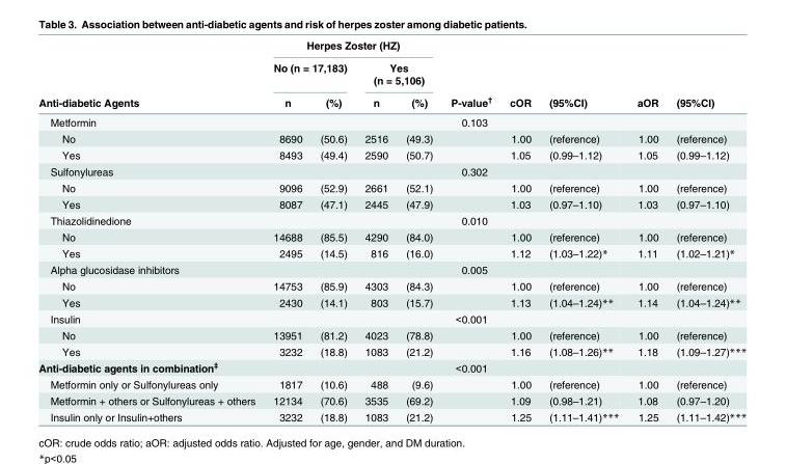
<table><thead><tr><td rowspan="3">Anti-diabetic Agents</td><td colspan="4">Herpes Zoster (HZ)</td><td rowspan="3">P-value<sup>†</sup></td><td rowspan="3">cOR</td><td rowspan="3">(95%CI)</td><td rowspan="3">aOR</td><td rowspan="3">(95%CI)</td></tr><tr><td colspan="2">No (n = 17,183)</td><td colspan="2">Yes (n = 5,106)</td></tr><tr><td>n</td><td>(%)</td><td>n</td><td>(%)</td></tr></thead><tbody><tr><td>Metformin</td><td></td><td></td><td></td><td></td><td>0.103</td><td></td><td></td><td></td><td></td></tr><tr><td>No</td><td>8690</td><td>(50.6)</td><td>2516</td><td>(49.3)</td><td></td><td>1.00</td><td>(reference)</td><td>1.00</td><td>(reference)</td></tr><tr><td>Yes</td><td>8493</td><td>(49.4)</td><td>2590</td><td>(50.7)</td><td></td><td>1.05</td><td>(0.99–1.12)</td><td>1.05</td><td>(0.99–1.12)</td></tr><tr><td>Sulfonylureas</td><td></td><td></td><td></td><td></td><td>0.302</td><td></td><td></td><td></td><td></td></tr><tr><td>No</td><td>9096</td><td>(52.9)</td><td>2661</td><td>(52.1)</td><td></td><td>1.00</td><td>(reference)</td><td>1.00</td><td>(reference)</td></tr><tr><td>Yes</td><td>8087</td><td>(47.1)</td><td>2445</td><td>(47.9)</td><td></td><td>1.03</td><td>(0.97–1.10)</td><td>1.03</td><td>(0.97–1.10)</td></tr><tr><td>Thiazolidinedione</td><td></td><td></td><td></td><td></td><td>0.010</td><td></td><td></td><td></td><td></td></tr><tr><td>No</td><td>14688</td><td>(85.5)</td><td>4290</td><td>(84.0)</td><td></td><td>1.00</td><td>(reference)</td><td>1.00</td><td>(reference)</td></tr><tr><td>Yes</td><td>2495</td><td>(14.5)</td><td>816</td><td>(16.0)</td><td></td><td>1.12</td><td>(1.03–1.22)*</td><td>1.11</td><td>(1.02–1.21)*</td></tr><tr><td>Alpha glucosidase inhibitors</td><td></td><td></td><td></td><td></td><td>0.005</td><td></td><td></td><td></td><td></td></tr><tr><td>No</td><td>14753</td><td>(85.9)</td><td>4303</td><td>(84.3)</td><td></td><td>1.00</td><td>(reference)</td><td>1.00</td><td>(reference)</td></tr><tr><td>Yes</td><td>2430</td><td>(14.1)</td><td>803</td><td>(15.7)</td><td></td><td>1.13</td><td>(1.04–1.24)**</td><td>1.14</td><td>(1.04–1.24)**</td></tr><tr><td>Insulin</td><td></td><td></td><td></td><td></td><td>&lt;0.001</td><td></td><td></td><td></td><td></td></tr><tr><td>No</td><td>13951</td><td>(81.2)</td><td>4023</td><td>(78.8)</td><td></td><td>1.00</td><td>(reference)</td><td>1.00</td><td>(reference)</td></tr><tr><td>Yes</td><td>3232</td><td>(18.8)</td><td>1083</td><td>(21.2)</td><td></td><td>1.16</td><td>(1.08–1.26)**</td><td>1.18</td><td>(1.09–1.27)***</td></tr><tr><td>Anti-diabetic agents in combination<sup>‡</sup></td><td></td><td></td><td></td><td></td><td>&lt;0.001</td><td></td><td></td><td></td><td></td></tr><tr><td>Metformin only or Sulfonylureas only</td><td>1817</td><td>(10.6)</td><td>488</td><td>(9.6)</td><td></td><td>1.00</td><td>(reference)</td><td>1.00</td><td>(reference)</td></tr><tr><td>Metformin + others or Sulfonylureas + others</td><td>12134</td><td>(70.6)</td><td>3535</td><td>(69.2)</td><td></td><td>1.09</td><td>(0.98–1.21)</td><td>1.08</td><td>(0.97–1.20)</td></tr><tr><td>Insulin only or Insulin+others</td><td>3232</td><td>(18.8)</td><td>1083</td><td>(21.2)</td><td></td><td>1.25</td><td>(1.11–1.41)***</td><td>1.25</td><td>(1.11–1.42)***</td></tr></tbody></table>